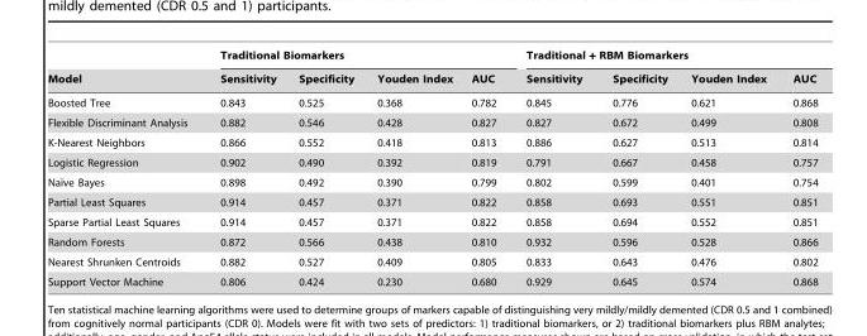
<table><thead><tr><td rowspan="2">Model</td><td colspan="4">Traditional Biomarkers</td><td colspan="4">Traditional + RBM Biomarkers</td></tr><tr><td>Sensitivity</td><td>Specificity</td><td>Youden Index</td><td>AUC</td><td>Sensitivity</td><td>Specificity</td><td>Youden Index</td><td>AUC</td></tr></thead><tbody><tr><td>Boosted Tree</td><td>0.843</td><td>0.525</td><td>0.368</td><td>0.782</td><td>0.845</td><td>0.776</td><td>0.621</td><td>0.868</td></tr><tr><td>Flexible Discriminant Analysis</td><td>0.882</td><td>0.546</td><td>0.428</td><td>0.827</td><td>0.827</td><td>0.672</td><td>0.499</td><td>0.808</td></tr><tr><td>K-Nearest Neighbors</td><td>0.866</td><td>0.552</td><td>0.418</td><td>0.813</td><td>0.886</td><td>0.627</td><td>0.513</td><td>0.814</td></tr><tr><td>Logistic Regression</td><td>0.902</td><td>0.490</td><td>0.392</td><td>0.819</td><td>0.791</td><td>0.667</td><td>0.458</td><td>0.757</td></tr><tr><td>Naı¨ve Bayes</td><td>0.898</td><td>0.492</td><td>0.390</td><td>0.799</td><td>0.802</td><td>0.599</td><td>0.401</td><td>0.754</td></tr><tr><td>Partial Least Squares</td><td>0.914</td><td>0.457</td><td>0.371</td><td>0.822</td><td>0.858</td><td>0.693</td><td>0.551</td><td>0.851</td></tr><tr><td>Sparse Partial Least Squares</td><td>0.914</td><td>0.457</td><td>0.371</td><td>0.822</td><td>0.858</td><td>0.694</td><td>0.552</td><td>0.851</td></tr><tr><td>Random Forests</td><td>0.872</td><td>0.566</td><td>0.438</td><td>0.810</td><td>0.932</td><td>0.596</td><td>0.528</td><td>0.866</td></tr><tr><td>Nearest Shrunken Centroids</td><td>0.882</td><td>0.527</td><td>0.409</td><td>0.805</td><td>0.833</td><td>0.643</td><td>0.476</td><td>0.802</td></tr><tr><td>Support Vector Machine</td><td>0.806</td><td>0.424</td><td>0.230</td><td>0.680</td><td>0.929</td><td>0.645</td><td>0.574</td><td>0.868</td></tr></tbody></table>